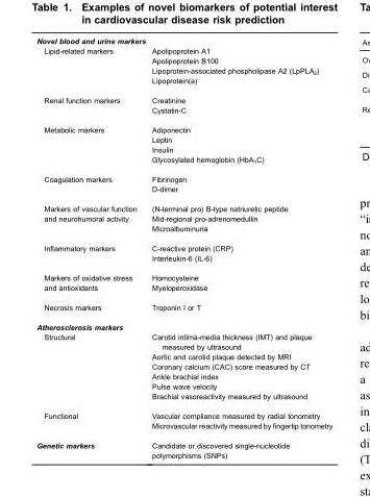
<table><tbody><tr><td colspan="2">Novel blood and urine markers</td></tr><tr><td rowspan="4">Lipid-related markers</td><td>Apolipoprotein A1</td></tr><tr><td>Apolipoprotein B100</td></tr><tr><td>Lipoprotein-associated phospholipase A2 (LpPLA<sub>2</sub>)</td></tr><tr><td>Lipoprotein(a)</td></tr><tr><td rowspan="2">Renal function markers</td><td>Creatinine</td></tr><tr><td>Cystatin-C</td></tr><tr><td rowspan="4">Metabolic markers</td><td>Adiponectin</td></tr><tr><td>Leptin</td></tr><tr><td>Insulin</td></tr><tr><td>Glycosylated hemoglobin (HbA<sub>1</sub>C)</td></tr><tr><td rowspan="2">Coagulation markers</td><td>Fibrinogen</td></tr><tr><td>D-dimer</td></tr><tr><td rowspan="3">Markers of vascular function and neurohumoral activity</td><td>(N-terminal pro) B-type natriuretic peptide</td></tr><tr><td>Mid-regional pro-adrenomedullin</td></tr><tr><td>Microalbuminuria</td></tr><tr><td rowspan="2">Inflammatory markers</td><td>C-reactive protein (CRP)</td></tr><tr><td>Interleukin-6 (IL-6)</td></tr><tr><td rowspan="2">Markers of oxidative stress and antioxidants</td><td>Homocysteine</td></tr><tr><td>Myeloperoxidase</td></tr><tr><td>Necrosis markers</td><td>Troponin I or T</td></tr><tr><td colspan="2">Atherosclerosis markers</td></tr><tr><td rowspan="6">Structural</td><td>Carotid intima-media thickness (IMT) and plaque measured by ultrasound</td></tr><tr><td>Aortic and carotid plaque detected by MRI</td></tr><tr><td>Coronary calcium (CAC) score measured by CT</td></tr><tr><td>Ankle brachial index</td></tr><tr><td>Pulse wave velocity</td></tr><tr><td>Brachial vasoreactivity measured by ultrasound</td></tr><tr><td rowspan="2">Functional</td><td>Vascular compliance measured by radial tonometry</td></tr><tr><td>Microvascular reactivity measured by fingertip tonometry</td></tr><tr><td>Genetic markers</td><td>Candidate or discovered single-nucleotide polymorphisms (SNPs)</td></tr></tbody></table>